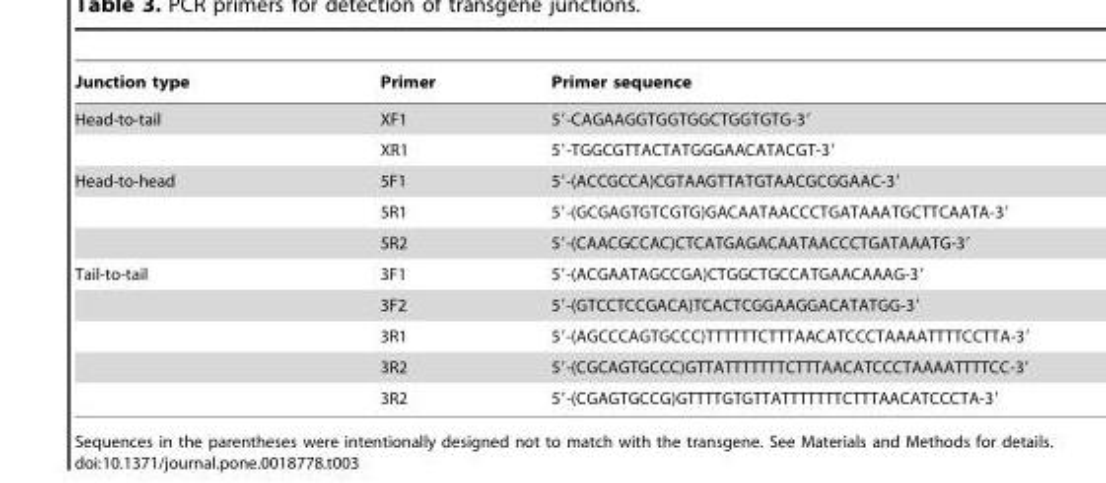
<table><thead><tr><td>Junction type</td><td>Primer</td><td>Primer sequence</td></tr></thead><tbody><tr><td rowspan="2">Head-to-tail</td><td>XF1</td><td>5′-CAGAAGGTGGTGGCTGGTGTG-3′</td></tr><tr><td>XR1</td><td>5′-TGGCGTTACTATGGGAACATACGT-3′</td></tr><tr><td rowspan="3">Head-to-head</td><td>5F1</td><td>5′-(ACCGCCA)CGTAAGTTATGTAACGCGGAAC-3′</td></tr><tr><td>5R1</td><td>5′-(GCGAGTGTCGTG)GACAATAACCCTGATAAATGCTTCAATA-3′</td></tr><tr><td>5R2</td><td>5′-(CAACGCCAC)CTCATGAGACAATAACCCTGATAAATG-3′</td></tr><tr><td rowspan="5">Tail-to-tail</td><td>3F1</td><td>5′-(ACGAATAGCCGA)CTGGCTGCCATGAACAAAG-3′</td></tr><tr><td>3F2</td><td>5′-(GTCCTCCGACA)TCACTCGGAAGGACATATGG-3′</td></tr><tr><td>3R1</td><td>5′-(AGCCCAGTGCCC)TTTTTTCTTTAACATCCCTAAAATTTTCCTTA-3′</td></tr><tr><td>3R2</td><td>5′-(CGCAGTGCCC)GTTATTTTTTTCTTTAACATCCCTAAAATTTTCC-3′</td></tr><tr><td>3R2</td><td>5′-(CGAGTGCCG)GTTTTGTGTTATTTTTTTCTTTAACATCCCTA-3′</td></tr></tbody></table>